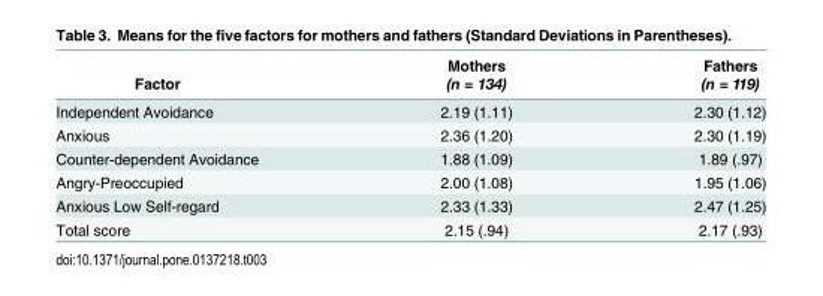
<table><thead><tr><td rowspan="2">Factor</td><td rowspan="2">Mothers (n = 134)</td><td rowspan="2">Fathers (n = 119)</td></tr><tr></tr></thead><tbody><tr><td>Independent Avoidance</td><td>2.19 (1.11)</td><td>2.30 (1.12)</td></tr><tr><td>Anxious</td><td>2.36 (1.20)</td><td>2.30 (1.19)</td></tr><tr><td>Counter-dependent Avoidance</td><td>1.88 (1.09)</td><td>1.89 (.97)</td></tr><tr><td>Angry-Preoccupied</td><td>2.00 (1.08)</td><td>1.95 (1.06)</td></tr><tr><td>Anxious Low Self-regard</td><td>2.33 (1.33)</td><td>2.47 (1.25)</td></tr><tr><td>Total score</td><td>2.15 (.94)</td><td>2.17 (.93)</td></tr></tbody></table>